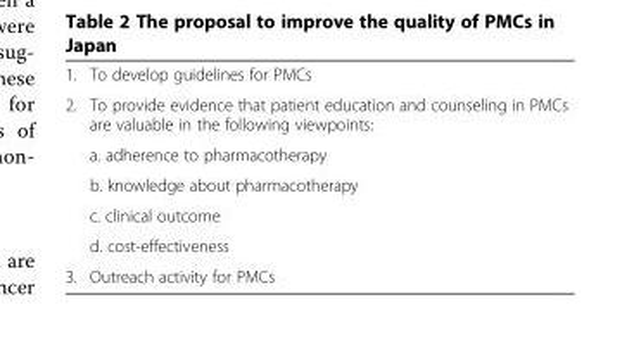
<table><tbody><tr><td>1.</td><td>To develop guidelines for PMCs</td></tr><tr><td rowspan="5">2.</td><td>To provide evidence that patient education and counseling in PMCs are valuable in the following viewpoints:</td></tr><tr><td>a. adherence to pharmacotherapy</td></tr><tr><td>b. knowledge about pharmacotherapy</td></tr><tr><td>c. clinical outcome</td></tr><tr><td>d. cost-effectiveness</td></tr><tr><td>3.</td><td>Outreach activity for PMCs</td></tr></tbody></table>